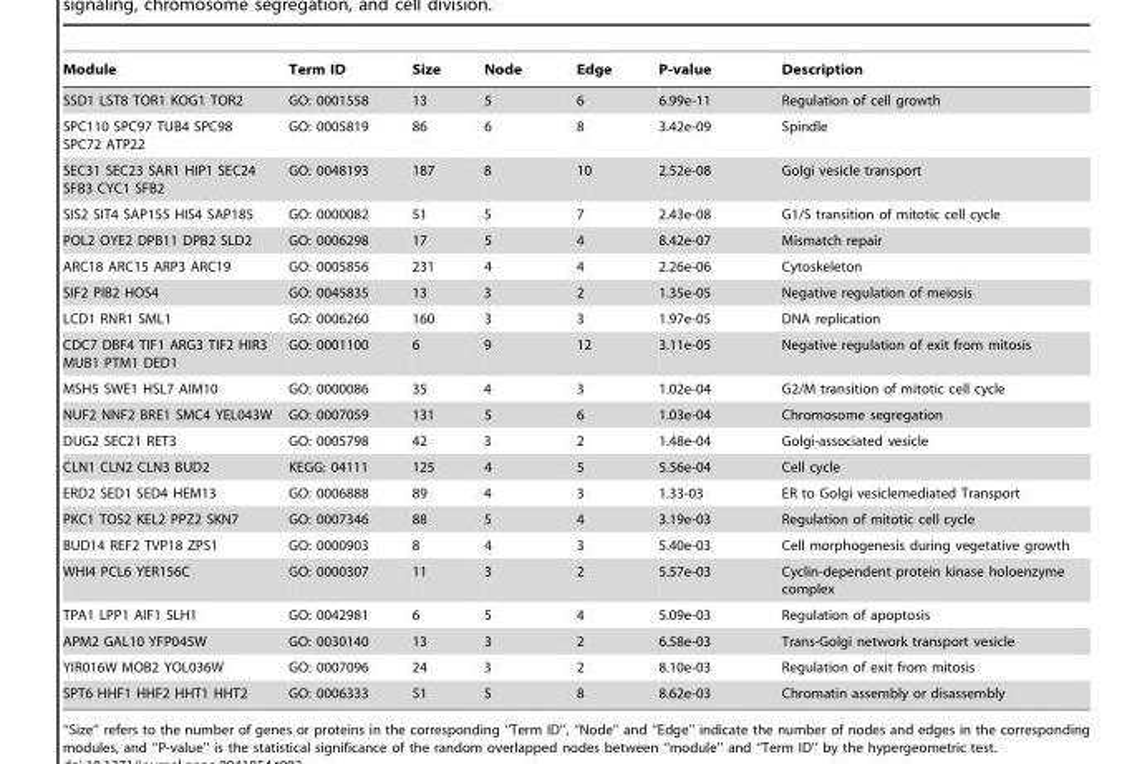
<table><thead><tr><td>Module</td><td>Term ID</td><td>Size</td><td>Node</td><td>Edge</td><td>P-value</td><td>Description</td></tr></thead><tbody><tr><td>SSD1 LST8 TOR1 KOG1 TOR2</td><td>GO: 0001558</td><td>13</td><td>5</td><td>6</td><td>6.99e-11</td><td>Regulation of cell growth</td></tr><tr><td>SPC110 SPC97 TUB4 SPC98 SPC72 ATP22</td><td>GO: 0005819</td><td>86</td><td>6</td><td>8</td><td>3.42e-09</td><td>Spindle</td></tr><tr><td>SEC31 SEC23 SAR1 HIP1 SEC24 SFB3 CYC1 SFB2</td><td>GO: 0048193</td><td>187</td><td>8</td><td>10</td><td>2.52e-08</td><td>Golgi vesicle transport</td></tr><tr><td>SIS2 SIT4 SAP155 HIS4 SAP185</td><td>GO: 0000082</td><td>51</td><td>5</td><td>7</td><td>2.43e-08</td><td>G1/S transition of mitotic cell cycle</td></tr><tr><td>POL2 OYE2 DPB11 DPB2 SLD2</td><td>GO: 0006298</td><td>17</td><td>5</td><td>4</td><td>8.42e-07</td><td>Mismatch repair</td></tr><tr><td>ARC18 ARC15 ARP3 ARC19</td><td>GO: 0005856</td><td>231</td><td>4</td><td>4</td><td>2.26e-06</td><td>Cytoskeleton</td></tr><tr><td>SIF2 PIB2 HOS4</td><td>GO: 0045835</td><td>13</td><td>3</td><td>2</td><td>1.35e-05</td><td>Negative regulation of meiosis</td></tr><tr><td>LCD1 RNR1 SML1</td><td>GO: 0006260</td><td>160</td><td>3</td><td>3</td><td>1.97e-05</td><td>DNA replication</td></tr><tr><td>CDC7 DBF4 TIF1 ARG3 TIF2 HIR3 MUB1 PTM1 DED1</td><td>GO: 0001100</td><td>6</td><td>9</td><td>12</td><td>3.11e-05</td><td>Negative regulation of exit from mitosis</td></tr><tr><td>MSH5 SWE1 HSL7 AIM10</td><td>GO: 0000086</td><td>35</td><td>4</td><td>3</td><td>1.02e-04</td><td>G2/M transition of mitotic cell cycle</td></tr><tr><td>NUF2 NNF2 BRE1 SMC4 YEL043W</td><td>GO: 0007059</td><td>131</td><td>5</td><td>6</td><td>1.03e-04</td><td>Chromosome segregation</td></tr><tr><td>DUG2 SEC21 RET3</td><td>GO: 0005798</td><td>42</td><td>3</td><td>2</td><td>1.48e-04</td><td>Golgi-associated vesicle</td></tr><tr><td>CLN1 CLN2 CLN3 BUD2</td><td>KEGG: 04111</td><td>125</td><td>4</td><td>5</td><td>5.56e-04</td><td>Cell cycle</td></tr><tr><td>ERD2 SED1 SED4 HEM13</td><td>GO: 0006888</td><td>89</td><td>4</td><td>3</td><td>1.33-03</td><td>ER to Golgi vesiclemediated Transport</td></tr><tr><td>PKC1 TOS2 KEL2 PPZ2 SKN7</td><td>GO: 0007346</td><td>88</td><td>5</td><td>4</td><td>3.19e-03</td><td>Regulation of mitotic cell cycle</td></tr><tr><td>BUD14 REF2 TVP18 ZPS1</td><td>GO: 0000903</td><td>8</td><td>4</td><td>3</td><td>5.40e-03</td><td>Cell morphogenesis during vegetative growth</td></tr><tr><td>WHI4 PCL6 YER156C</td><td>GO: 0000307</td><td>11</td><td>3</td><td>2</td><td>5.57e-03</td><td>Cyclin-dependent protein kinase holoenzyme complex</td></tr><tr><td>TPA1 LPP1 AIF1 SLH1</td><td>GO: 0042981</td><td>6</td><td>5</td><td>4</td><td>5.09e-03</td><td>Regulation of apoptosis</td></tr><tr><td>APM2 GAL10 YFP045W</td><td>GO: 0030140</td><td>13</td><td>3</td><td>2</td><td>6.58e-03</td><td>Trans-Golgi network transport vesicle</td></tr><tr><td>YIR016W MOB2 YOL036W</td><td>GO: 0007096</td><td>24</td><td>3</td><td>2</td><td>8.10e-03</td><td>Regulation of exit from mitosis</td></tr><tr><td>SPT6 HHF1 HHF2 HHT1 HHT2</td><td>GO: 0006333</td><td>51</td><td>5</td><td>8</td><td>8.62e-03</td><td>Chromatin assembly or disassembly</td></tr></tbody></table>